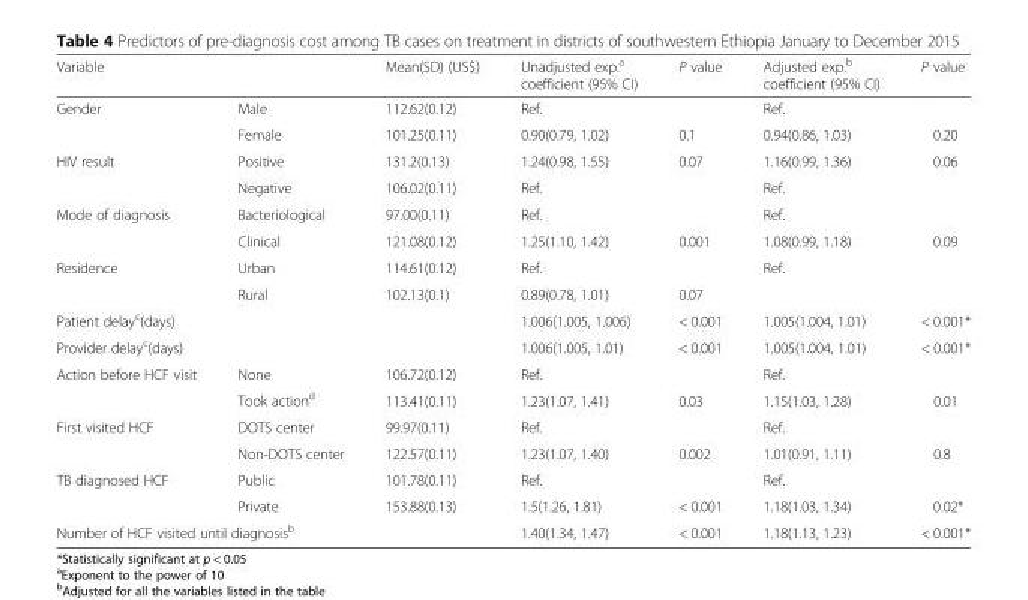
<table><thead><tr><td colspan="2">Variable</td><td rowspan="2">Mean(SD) (US$) 112.62(0.12)</td><td rowspan="2">Unadjusted exp.<sup>a</sup> coefficient (95% CI) Ref.</td><td rowspan="2">P value</td><td rowspan="2">Adjusted exp.<sup>b</sup> coefficient (95% CI) Ref.</td><td rowspan="2">P value</td></tr><tr><td>Gender</td><td>Male</td></tr></thead><tbody><tr><td></td><td>Female</td><td>101.25(0.11)</td><td>0.90(0.79, 1.02)</td><td>0.1</td><td>0.94(0.86, 1.03)</td><td>0.20</td></tr><tr><td rowspan="2">HIV result</td><td>Positive</td><td>131.2(0.13)</td><td>1.24(0.98, 1.55)</td><td>0.07</td><td>1.16(0.99, 1.36)</td><td>0.06</td></tr><tr><td>Negative</td><td>106.02(0.11)</td><td>Ref.</td><td></td><td>Ref.</td><td></td></tr><tr><td rowspan="2">Mode of diagnosis</td><td>Bacteriological</td><td>97.00(0.11)</td><td>Ref.</td><td></td><td>Ref.</td><td></td></tr><tr><td>Clinical</td><td>121.08(0.12)</td><td>1.25(1.10, 1.42)</td><td>0.001</td><td>1.08(0.99, 1.18)</td><td>0.09</td></tr><tr><td rowspan="2">Residence</td><td>Urban</td><td>114.61(0.12)</td><td>Ref.</td><td></td><td>Ref.</td><td></td></tr><tr><td>Rural</td><td>102.13(0.1)</td><td>0.89(0.78, 1.01)</td><td>0.07</td><td></td><td></td></tr><tr><td colspan="3">Patient delay<sup>c</sup>(days)</td><td>1.006(1.005, 1.006)</td><td>&lt; 0.001</td><td>1.005(1.004, 1.01)</td><td>&lt; 0.001*</td></tr><tr><td colspan="3">Provider delay<sup>c</sup>(days)</td><td>1.006(1.005, 1.01)</td><td>&lt; 0.001</td><td>1.005(1.004, 1.01)</td><td>&lt; 0.001*</td></tr><tr><td rowspan="2">Action before HCF visit</td><td>None</td><td>106.72(0.12)</td><td>Ref.</td><td></td><td>Ref.</td><td></td></tr><tr><td>Took action<sup>d</sup></td><td>113.41(0.11)</td><td>1.23(1.07, 1.41)</td><td>0.03</td><td>1.15(1.03, 1.28)</td><td>0.01</td></tr><tr><td rowspan="2">First visited HCF</td><td>DOTS center</td><td>99.97(0.11)</td><td>Ref.</td><td></td><td>Ref.</td><td></td></tr><tr><td>Non-DOTS center</td><td>122.57(0.11)</td><td>1.23(1.07, 1.40)</td><td>0.002</td><td>1.01(0.91, 1.11)</td><td>0.8</td></tr><tr><td rowspan="2">TB diagnosed HCF</td><td>Public</td><td>101.78(0.11)</td><td>Ref.</td><td></td><td>Ref.</td><td></td></tr><tr><td>Private</td><td>153.88(0.13)</td><td>1.5(1.26, 1.81)</td><td>&lt; 0.001</td><td>1.18(1.03, 1.34)</td><td>0.02*</td></tr><tr><td colspan="3">Number of HCF visited until diagnosis<sup>b</sup></td><td>1.40(1.34, 1.47)</td><td>&lt; 0.001</td><td>1.18(1.13, 1.23)</td><td>&lt; 0.001*</td></tr></tbody></table>